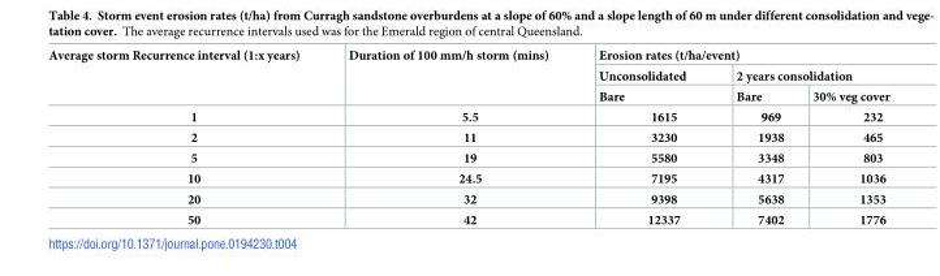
<table><thead><tr><td rowspan="3">Average storm Recurrence interval (1:x years)</td><td rowspan="3">Duration of 100 mm/h storm (mins)</td><td colspan="3">Erosion rates (t/ha/event)</td></tr><tr><td rowspan="2">Unconsolidated Bare</td><td colspan="2">2 years consolidation</td></tr><tr><td>Bare</td><td>30% veg cover</td></tr></thead><tbody><tr><td>1</td><td>5.5</td><td>1615</td><td>969</td><td>232</td></tr><tr><td>2</td><td>11</td><td>3230</td><td>1938</td><td>465</td></tr><tr><td>5</td><td>19</td><td>5580</td><td>3348</td><td>803</td></tr><tr><td>10</td><td>24.5</td><td>7195</td><td>4317</td><td>1036</td></tr><tr><td>20</td><td>32</td><td>9398</td><td>5638</td><td>1353</td></tr><tr><td>50</td><td>42</td><td>12337</td><td>7402</td><td>1776</td></tr></tbody></table>